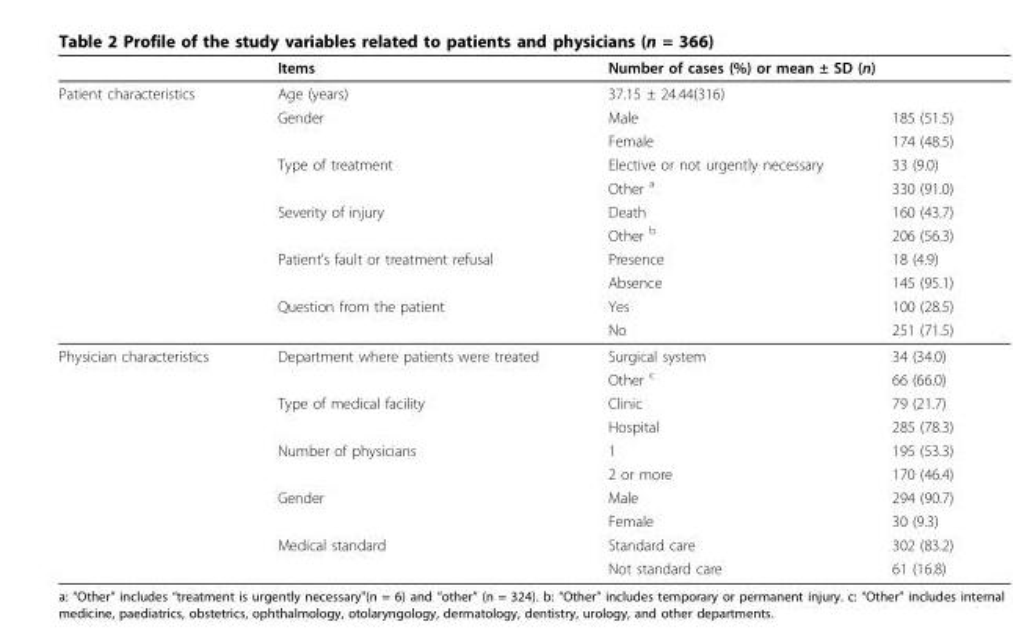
<table><thead><tr><td rowspan="3">Patient characteristics</td><td rowspan="3">Items Age (years) Gender</td><td rowspan="2" colspan="2">Number of cases (%) or mean ± SD (n) 37.15 ± 24.44(316)</td></tr><tr></tr><tr><td>Male</td><td>185 (51.5)</td></tr></thead><tbody><tr><td></td><td></td><td>Female</td><td>174 (48.5)</td></tr><tr><td></td><td>Type of treatment</td><td>Elective or not urgently necessary</td><td>33 (9.0)</td></tr><tr><td></td><td></td><td>Other <sup>a</sup></td><td>330 (91.0)</td></tr><tr><td></td><td>Severity of injury</td><td>Death</td><td>160 (43.7)</td></tr><tr><td></td><td></td><td>Other <sup>b</sup></td><td>206 (56.3)</td></tr><tr><td></td><td>Patient’s fault or treatment refusal</td><td>Presence</td><td>18 (4.9)</td></tr><tr><td></td><td></td><td>Absence</td><td>145 (95.1)</td></tr><tr><td></td><td>Question from the patient</td><td>Yes</td><td>100 (28.5)</td></tr><tr><td></td><td></td><td>No</td><td>251 (71.5)</td></tr><tr><td rowspan="10">Physician characteristics</td><td>Department where patients were treated</td><td>Surgical system</td><td>34 (34.0)</td></tr><tr><td></td><td>Other <sup>c</sup></td><td>66 (66.0)</td></tr><tr><td>Type of medical facility</td><td>Clinic</td><td>79 (21.7)</td></tr><tr><td></td><td>Hospital</td><td>285 (78.3)</td></tr><tr><td>Number of physicians</td><td>1</td><td>195 (53.3)</td></tr><tr><td></td><td>2 or more</td><td>170 (46.4)</td></tr><tr><td>Gender</td><td>Male</td><td>294 (90.7)</td></tr><tr><td></td><td>Female</td><td>30 (9.3)</td></tr><tr><td>Medical standard</td><td>Standard care</td><td>302 (83.2)</td></tr><tr><td></td><td>Not standard care</td><td>61 (16.8)</td></tr></tbody></table>